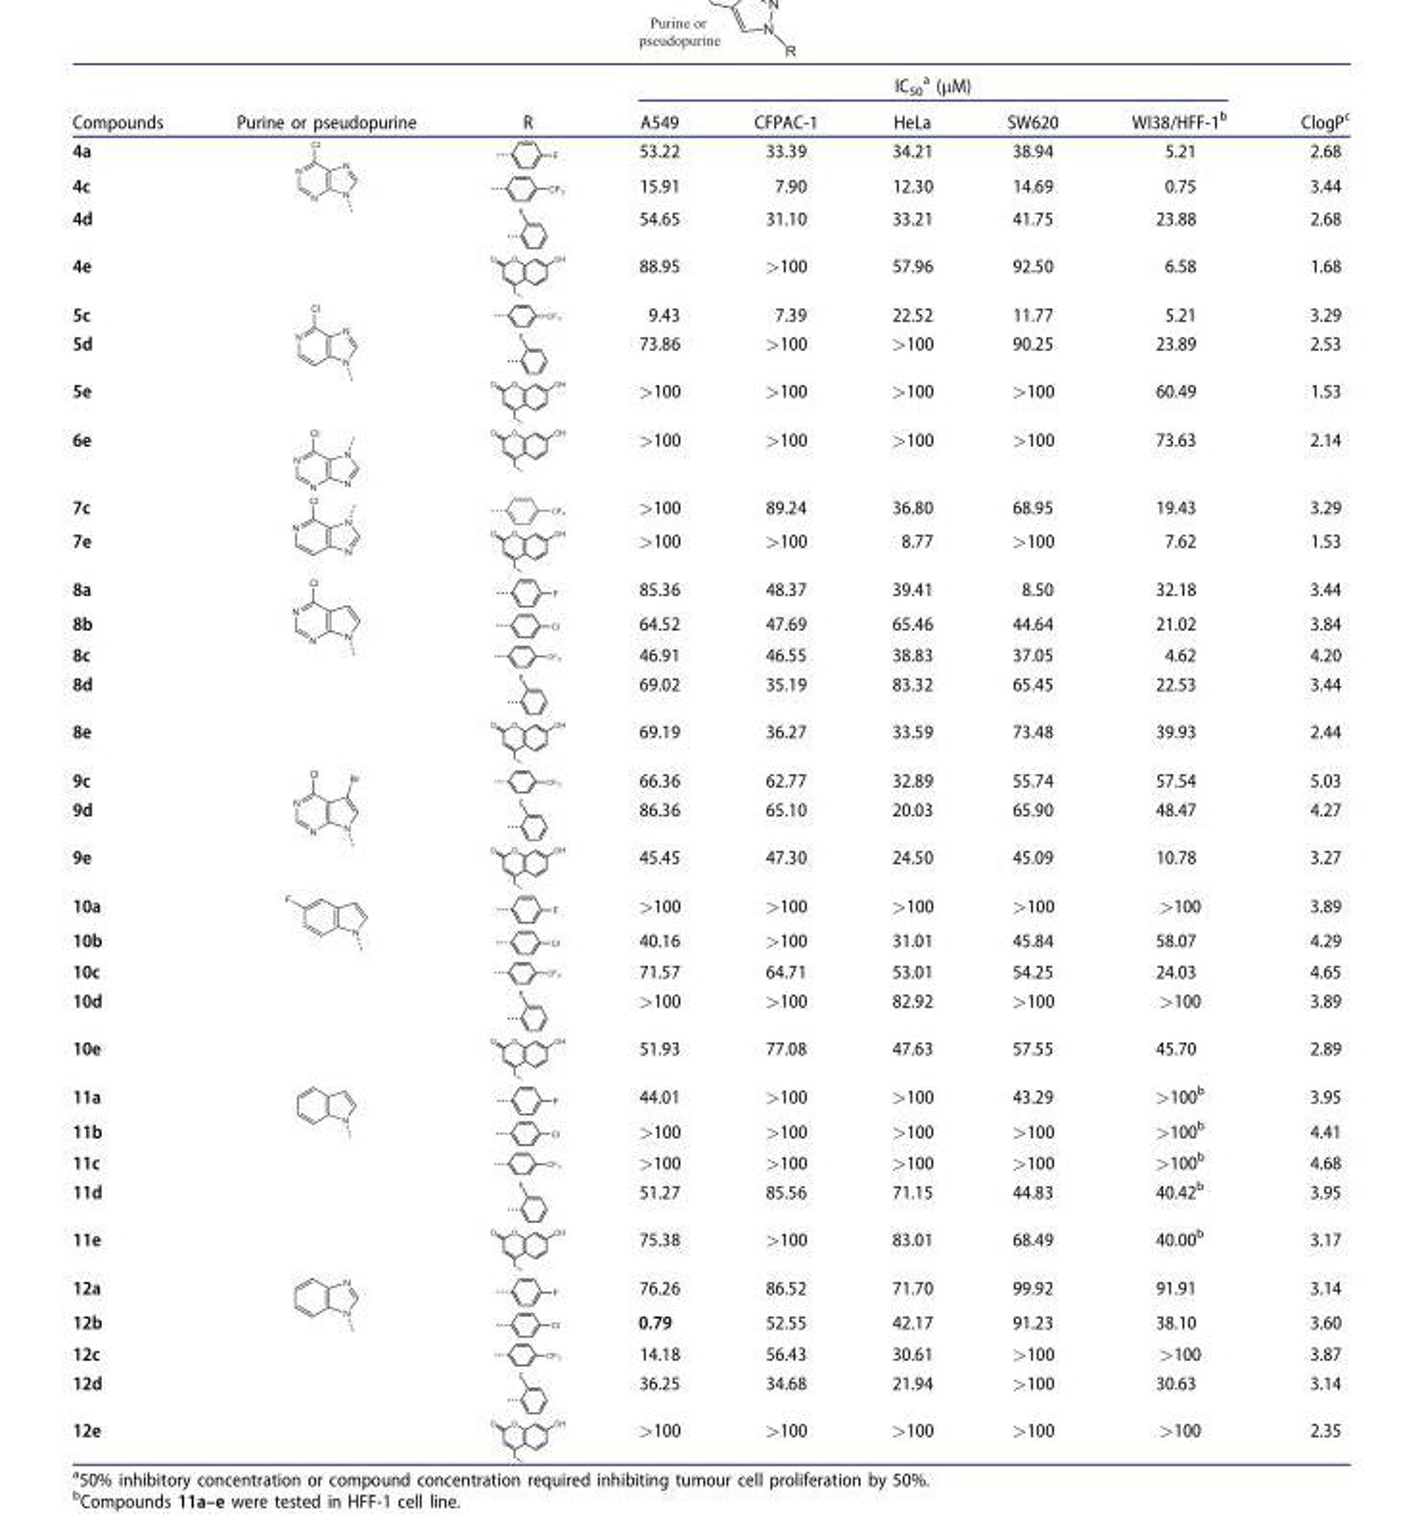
<table><thead><tr><td rowspan="2">Compounds</td><td rowspan="2">Purine or pseudopurine</td><td rowspan="2">R</td><td colspan="5">IC<sub>50</sub> <sup>a</sup> (µM)</td><td rowspan="2">ClogP<sup>c</sup></td></tr><tr><td>A549</td><td>CFPAC-1</td><td>HeLa</td><td>SW620</td><td>WI38/HFF-1<sup>b</sup></td></tr></thead><tbody><tr><td>4a</td><td rowspan="4"></td><td></td><td>53.22</td><td>33.39</td><td>34.21</td><td>38.94</td><td>5.21</td><td>2.68</td></tr><tr><td>4c</td><td></td><td>15.91</td><td>7.90</td><td>12.30</td><td>14.69</td><td>0.75</td><td>3.44</td></tr><tr><td>4d</td><td></td><td>54.65</td><td>31.10</td><td>33.21</td><td>41.75</td><td>23.88</td><td>2.68</td></tr><tr><td>4e</td><td></td><td>88.95</td><td>&gt;100</td><td>57.96</td><td>92.50</td><td>6.58</td><td>1.68</td></tr><tr><td>5c</td><td rowspan="3"></td><td></td><td>9.43</td><td>7.39</td><td>22.52</td><td>11.77</td><td>5.21</td><td>3.29</td></tr><tr><td>5d</td><td></td><td>73.86</td><td>&gt;100</td><td>&gt;100</td><td>90.25</td><td>23.89</td><td>2.53</td></tr><tr><td>5e</td><td></td><td>&gt;100</td><td>&gt;100</td><td>&gt;100</td><td>&gt;100</td><td>60.49</td><td>1.53</td></tr><tr><td>6e</td><td></td><td></td><td>&gt;100</td><td>&gt;100</td><td>&gt;100</td><td>&gt;100</td><td>73.63</td><td>2.14</td></tr><tr><td>7c</td><td rowspan="2"></td><td></td><td>&gt;100</td><td>89.24</td><td>36.80</td><td>68.95</td><td>19.43</td><td>3.29</td></tr><tr><td>7e</td><td></td><td>&gt;100</td><td>&gt;100</td><td>8.77</td><td>&gt;100</td><td>7.62</td><td>1.53</td></tr><tr><td>8a</td><td rowspan="5"></td><td></td><td>85.36</td><td>48.37</td><td>39.41</td><td>8.50</td><td>32.18</td><td>3.44</td></tr><tr><td>8b</td><td></td><td>64.52</td><td>47.69</td><td>65.46</td><td>44.64</td><td>21.02</td><td>3.84</td></tr><tr><td>8c</td><td></td><td>46.91</td><td>46.55</td><td>38.83</td><td>37.05</td><td>4.62</td><td>4.20</td></tr><tr><td>8d</td><td></td><td>69.02</td><td>35.19</td><td>83.32</td><td>65.45</td><td>22.53</td><td>3.44</td></tr><tr><td>8e</td><td></td><td>69.19</td><td>36.27</td><td>33.59</td><td>73.48</td><td>39.93</td><td>2.44</td></tr><tr><td>9c</td><td rowspan="3"></td><td></td><td>66.36</td><td>62.77</td><td>32.89</td><td>55.74</td><td>57.54</td><td>5.03</td></tr><tr><td>9d</td><td></td><td>86.36</td><td>65.10</td><td>20.03</td><td>65.90</td><td>48.47</td><td>4.27</td></tr><tr><td>9e</td><td></td><td>45.45</td><td>47.30</td><td>24.50</td><td>45.09</td><td>10.78</td><td>3.27</td></tr><tr><td>10a</td><td rowspan="5"></td><td></td><td>&gt;100</td><td>&gt;100</td><td>&gt;100</td><td>&gt;100</td><td>&gt;100</td><td>3.89</td></tr><tr><td>10b</td><td></td><td>40.16</td><td>&gt;100</td><td>31.01</td><td>45.84</td><td>58.07</td><td>4.29</td></tr><tr><td>10c</td><td></td><td>71.57</td><td>64.71</td><td>53.01</td><td>54.25</td><td>24.03</td><td>4.65</td></tr><tr><td>10d</td><td></td><td>&gt;100</td><td>&gt;100</td><td>82.92</td><td>&gt;100</td><td>&gt;100</td><td>3.89</td></tr><tr><td>10e</td><td></td><td>51.93</td><td>77.08</td><td>47.63</td><td>57.55</td><td>45.70</td><td>2.89</td></tr><tr><td>11a</td><td rowspan="5"></td><td></td><td>44.01</td><td>&gt;100</td><td>&gt;100</td><td>43.29</td><td>&gt;100<sup>b</sup></td><td>3.95</td></tr><tr><td>11b</td><td></td><td>&gt;100</td><td>&gt;100</td><td>&gt;100</td><td>&gt;100</td><td>&gt;100<sup>b</sup></td><td>4.41</td></tr><tr><td>11c</td><td></td><td>&gt;100</td><td>&gt;100</td><td>&gt;100</td><td>&gt;100</td><td>&gt;100<sup>b</sup></td><td>4.68</td></tr><tr><td>11d</td><td></td><td>51.27</td><td>85.56</td><td>71.15</td><td>44.83</td><td>40.42<sup>b</sup></td><td>3.95</td></tr><tr><td>11e</td><td></td><td>75.38</td><td>&gt;100</td><td>83.01</td><td>68.49</td><td>40.00<sup>b</sup></td><td>3.17</td></tr><tr><td>12a</td><td rowspan="5"></td><td></td><td>76.26</td><td>86.52</td><td>71.70</td><td>99.92</td><td>91.91</td><td>3.14</td></tr><tr><td>12b</td><td></td><td>0.79</td><td>52.55</td><td>42.17</td><td>91.23</td><td>38.10</td><td>3.60</td></tr><tr><td>12c</td><td></td><td>14.18</td><td>56.43</td><td>30.61</td><td>&gt;100</td><td>&gt;100</td><td>3.87</td></tr><tr><td>12d</td><td></td><td>36.25</td><td>34.68</td><td>21.94</td><td>&gt;100</td><td>30.63</td><td>3.14</td></tr><tr><td>12e</td><td></td><td>&gt;100</td><td>&gt;100</td><td>&gt;100</td><td>&gt;100</td><td>&gt;100</td><td>2.35</td></tr></tbody></table>